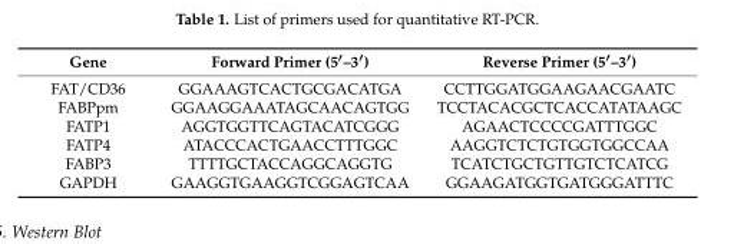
<table><thead><tr><td>Gene</td><td>Forward Primer (5′–3′)</td><td>Reverse Primer (5′–3′)</td></tr></thead><tbody><tr><td>FAT/CD36</td><td>GGAAAGTCACTGCGACATGA</td><td>CCTTGGATGGAAGAACGAATC</td></tr><tr><td>FABPpm</td><td>GGAAGGAAATAGCAACAGTGG</td><td>TCCTACACGCTCACCATATAAGC</td></tr><tr><td>FATP1</td><td>AGGTGGTTCAGTACATCGGG</td><td>AGAACTCCCCGATTTGGC</td></tr><tr><td>FATP4</td><td>ATACCCACTGAACCTTTGGC</td><td>AAGGTCTCTGTGGTGGCCAA</td></tr><tr><td>FABP3</td><td>TTTTGCTACCAGGCAGGTG</td><td>TCATCTGCTGTTGTCTCATCG</td></tr><tr><td>GAPDH</td><td>GAAGGTGAAGGTCGGAGTCAA</td><td>GGAAGATGGTGATGGGATTTC</td></tr></tbody></table>